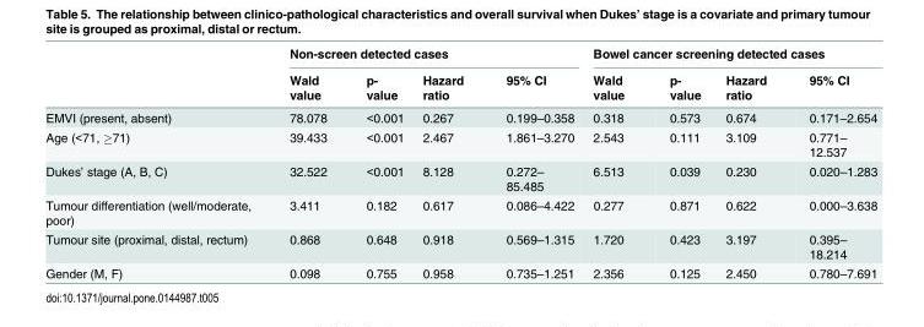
<table><thead><tr><td rowspan="2"></td><td colspan="4">Non-screen detected cases</td><td colspan="4">Bowel cancer screening detected cases</td></tr><tr><td>Wald value</td><td>p- value</td><td>Hazard ratio</td><td>95% CI</td><td>Wald value</td><td>p- value</td><td>Hazard ratio</td><td>95% CI</td></tr></thead><tbody><tr><td>EMVI (present, absent)</td><td>78.078</td><td>&lt;0.001</td><td>0.267</td><td>0.199–0.358</td><td>0.318</td><td>0.573</td><td>0.674</td><td>0.171–2.654</td></tr><tr><td>Age (&lt;71, ≥71)</td><td>39.433</td><td>&lt;0.001</td><td>2.467</td><td>1.861–3.270</td><td>2.543</td><td>0.111</td><td>3.109</td><td>0.771– 12.537</td></tr><tr><td>Dukes’ stage (A, B, C)</td><td>32.522</td><td>&lt;0.001</td><td>8.128</td><td>0.272– 85.485</td><td>6.513</td><td>0.039</td><td>0.230</td><td>0.020–1.283</td></tr><tr><td>Tumour differentiation (well/moderate, poor)</td><td>3.411</td><td>0.182</td><td>0.617</td><td>0.086–4.422</td><td>0.277</td><td>0.871</td><td>0.622</td><td>0.000–3.638</td></tr><tr><td>Tumour site (proximal, distal, rectum)</td><td>0.868</td><td>0.648</td><td>0.918</td><td>0.569–1.315</td><td>1.720</td><td>0.423</td><td>3.197</td><td>0.395– 18.214</td></tr><tr><td>Gender (M, F)</td><td>0.098</td><td>0.755</td><td>0.958</td><td>0.735–1.251</td><td>2.356</td><td>0.125</td><td>2.450</td><td>0.780–7.691</td></tr></tbody></table>